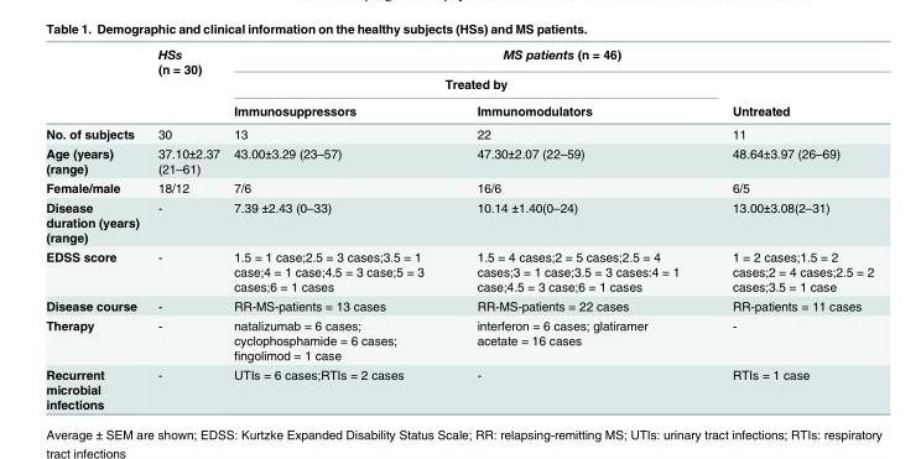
<table><thead><tr><td rowspan="3"></td><td rowspan="3">HSs (n = 30)</td><td colspan="3">MS patients (n = 46)</td></tr><tr><td colspan="2">Treated by</td><td rowspan="2">Untreated</td></tr><tr><td>Immunosuppressors</td><td>Immunomodulators</td></tr></thead><tbody><tr><td>No. of subjects</td><td>30</td><td>13</td><td>22</td><td>11</td></tr><tr><td>Age (years) (range)</td><td>37.10±2.37 (21–61)</td><td>43.00±3.29 (23–57)</td><td>47.30±2.07 (22–59)</td><td>48.64±3.97 (26–69)</td></tr><tr><td>Female/male</td><td>18/12</td><td>7/6</td><td>16/6</td><td>6/5</td></tr><tr><td>Disease duration (years) (range)</td><td>-</td><td>7.39 ±2.43 (0–33)</td><td>10.14 ±1.40(0–24)</td><td>13.00±3.08(2–31)</td></tr><tr><td>EDSS score</td><td>-</td><td>1.5 = 1 case;2.5 = 3 cases;3.5 = 1 case;4 = 1 case;4.5 = 3 case;5 = 3 cases;6 = 1 cases</td><td>1.5 = 4 cases;2 = 5 cases;2.5 = 4 cases;3 = 1 case;3.5 = 3 cases:4 = 1 case;4.5 = 3 case;6 = 1 cases</td><td>1 = 2 cases;1.5 = 2 cases;2 = 4 cases;2.5 = 2 cases;3.5 = 1 case</td></tr><tr><td>Disease course</td><td>-</td><td>RR-MS-patients = 13 cases</td><td>RR-MS-patients = 22 cases</td><td>RR-patients = 11 cases</td></tr><tr><td>Therapy</td><td>-</td><td>natalizumab = 6 cases; cyclophosphamide = 6 cases; fingolimod = 1 case</td><td>interferon = 6 cases; glatiramer acetate = 16 cases</td><td>-</td></tr><tr><td>Recurrent microbial infections</td><td>-</td><td>UTIs = 6 cases;RTIs = 2 cases</td><td>-</td><td>RTIs = 1 case</td></tr></tbody></table>